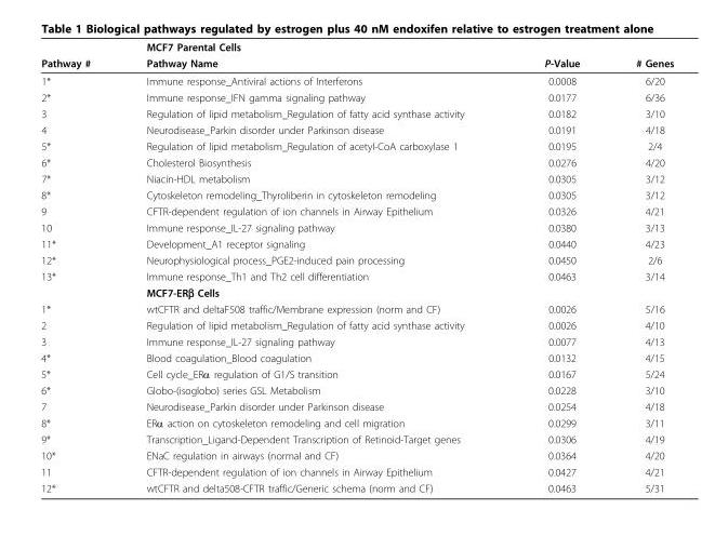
<table><thead><tr><td rowspan="2">Pathway #</td><td rowspan="2">MCF7 Parental Cells Pathway Name</td><td rowspan="2">P-Value</td><td rowspan="2"># Genes</td></tr><tr></tr></thead><tbody><tr><td>1*</td><td>Immune response_Antiviral actions of Interferons</td><td>0.0008</td><td>6/20</td></tr><tr><td>2*</td><td>Immune response_IFN gamma signaling pathway</td><td>0.0177</td><td>6/36</td></tr><tr><td>3</td><td>Regulation of lipid metabolism_Regulation of fatty acid synthase activity</td><td>0.0182</td><td>3/10</td></tr><tr><td>4</td><td>Neurodisease_Parkin disorder under Parkinson disease</td><td>0.0191</td><td>4/18</td></tr><tr><td>5*</td><td>Regulation of lipid metabolism_Regulation of acetyl-CoA carboxylase 1</td><td>0.0195</td><td>2/4</td></tr><tr><td>6*</td><td>Cholesterol Biosynthesis</td><td>0.0276</td><td>4/20</td></tr><tr><td>7*</td><td>Niacin-HDL metabolism</td><td>0.0305</td><td>3/12</td></tr><tr><td>8*</td><td>Cytoskeleton remodeling_Thyroliberin in cytoskeleton remodeling</td><td>0.0305</td><td>3/12</td></tr><tr><td>9</td><td>CFTR-dependent regulation of ion channels in Airway Epithelium</td><td>0.0326</td><td>4/21</td></tr><tr><td>10</td><td>Immune response_IL-27 signaling pathway</td><td>0.0380</td><td>3/13</td></tr><tr><td>11*</td><td>Development_A1 receptor signaling</td><td>0.0440</td><td>4/23</td></tr><tr><td>12*</td><td>Neurophysiological process_PGE2-induced pain processing</td><td>0.0450</td><td>2/6</td></tr><tr><td rowspan="2">13*</td><td>Immune response_Th1 and Th2 cell differentiation</td><td>0.0463</td><td>3/14</td></tr><tr><td>MCF7-ERβ Cells</td><td></td><td></td></tr><tr><td>1*</td><td>wtCFTR and deltaF508 traffic/Membrane expression (norm and CF)</td><td>0.0026</td><td>5/16</td></tr><tr><td>2</td><td>Regulation of lipid metabolism_Regulation of fatty acid synthase activity</td><td>0.0026</td><td>4/10</td></tr><tr><td>3</td><td>Immune response_IL-27 signaling pathway</td><td>0.0077</td><td>4/13</td></tr><tr><td>4*</td><td>Blood coagulation_Blood coagulation</td><td>0.0132</td><td>4/15</td></tr><tr><td>5*</td><td>Cell cycle_ERα regulation of G1/S transition</td><td>0.0167</td><td>5/24</td></tr><tr><td>6*</td><td>Globo-(isoglobo) series GSL Metabolism</td><td>0.0228</td><td>3/10</td></tr><tr><td>7</td><td>Neurodisease_Parkin disorder under Parkinson disease</td><td>0.0254</td><td>4/18</td></tr><tr><td>8*</td><td>ERα action on cytoskeleton remodeling and cell migration</td><td>0.0299</td><td>3/11</td></tr><tr><td>9*</td><td>Transcription_Ligand-Dependent Transcription of Retinoid-Target genes</td><td>0.0306</td><td>4/19</td></tr><tr><td>10*</td><td>ENaC regulation in airways (normal and CF)</td><td>0.0364</td><td>4/20</td></tr><tr><td>11</td><td>CFTR-dependent regulation of ion channels in Airway Epithelium</td><td>0.0427</td><td>4/21</td></tr><tr><td>12*</td><td>wtCFTR and delta508-CFTR traffic/Generic schema (norm and CF)</td><td>0.0463</td><td>5/31</td></tr></tbody></table>